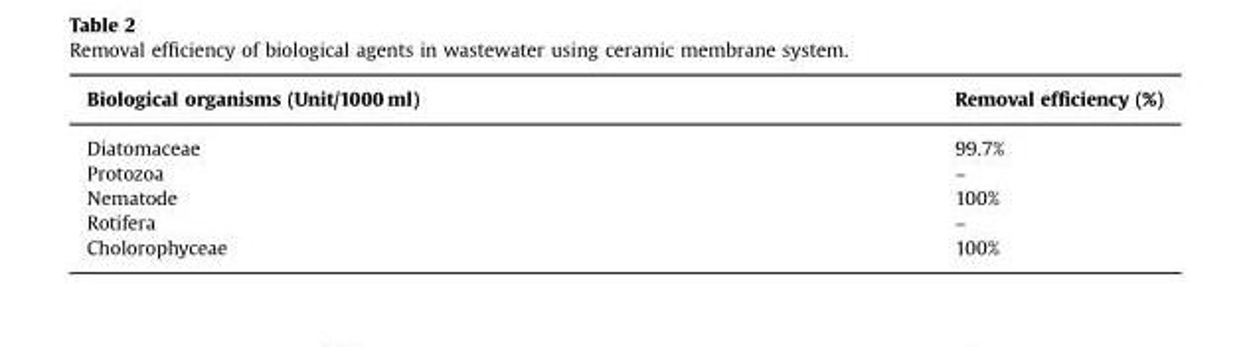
<table><thead><tr><td>Biological organisms (Unit/1000 ml)</td><td>Removal efficiency (%)</td></tr></thead><tbody><tr><td>Diatomaceae</td><td>99.7%</td></tr><tr><td>Protozoa</td><td>–</td></tr><tr><td>Nematode</td><td>100%</td></tr><tr><td>Rotifera</td><td>–</td></tr><tr><td>Cholorophyceae</td><td>100%</td></tr></tbody></table>